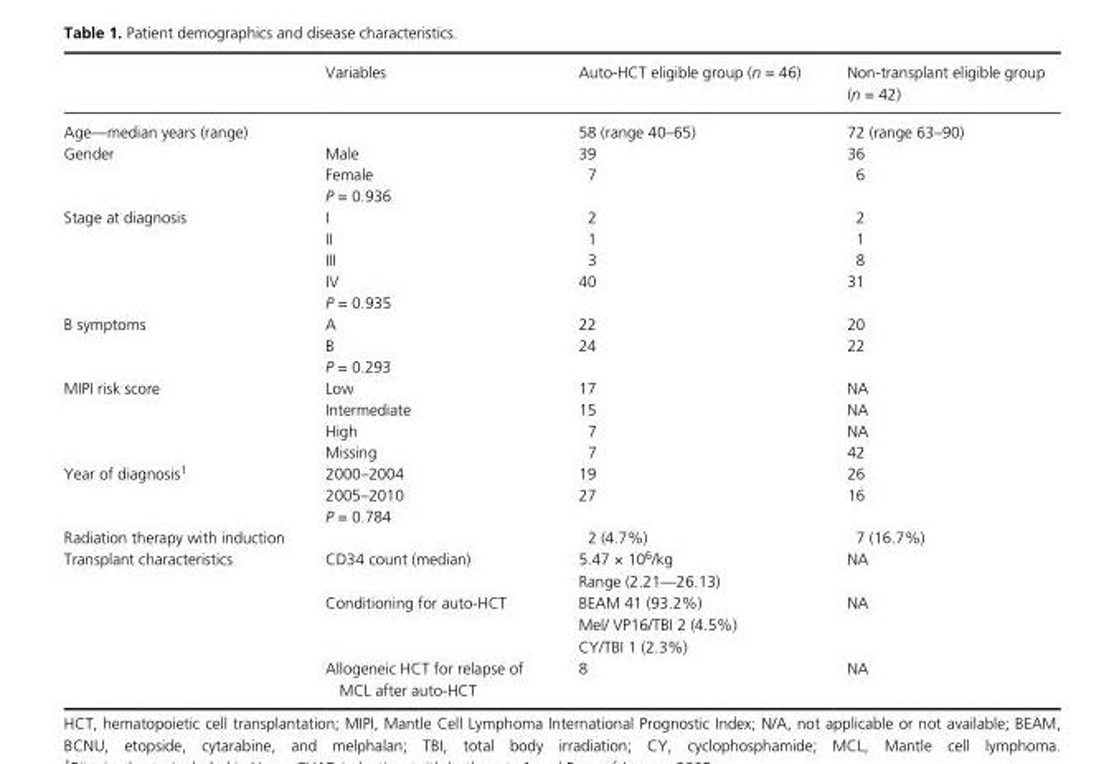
<table><thead><tr><td></td><td>Variables</td><td>Auto- HCT eligible group (n = 46)</td><td>Non- transplant eligible group (n = 42)</td></tr></thead><tbody><tr><td>Age—median years (range)</td><td></td><td>58 (range 40–65)</td><td>72 (range 63–90)</td></tr><tr><td rowspan="3">Gender</td><td>Male</td><td>39</td><td>36</td></tr><tr><td>Female</td><td>7</td><td>6</td></tr><tr><td colspan="3">P = 0.936</td></tr><tr><td rowspan="5">Stage at diagnosis</td><td>I</td><td>2</td><td>2</td></tr><tr><td>II</td><td>1</td><td>1</td></tr><tr><td>III</td><td>3</td><td>8</td></tr><tr><td>IV</td><td>40</td><td>31</td></tr><tr><td colspan="3">P = 0.935</td></tr><tr><td rowspan="3">B symptoms</td><td>A</td><td>22</td><td>20</td></tr><tr><td>B</td><td>24</td><td>22</td></tr><tr><td colspan="3">P = 0.293</td></tr><tr><td rowspan="4">MIPI risk score</td><td>Low</td><td>17</td><td>NA</td></tr><tr><td>Intermediate</td><td>15</td><td>NA</td></tr><tr><td>High</td><td>7</td><td>NA</td></tr><tr><td>Missing</td><td>7</td><td>42</td></tr><tr><td rowspan="3">Year of diagnosis1</td><td>2000–2004</td><td>19</td><td>26</td></tr><tr><td>2005–2010</td><td>27</td><td>16</td></tr><tr><td colspan="3">P = 0.784</td></tr><tr><td>Radiation therapy with induction</td><td></td><td>2 (4.7%)</td><td>7 (16.7%)</td></tr><tr><td rowspan="3">Transplant characteristics</td><td>CD34 count (median)</td><td>5.47 × 10<sup>6</sup>/kg Range (2.21—26.13)</td><td>NA</td></tr><tr><td>Conditioning for auto- HCT</td><td>BEAM 41 (93.2%) Mel/ VP16/TBI 2 (4.5%) CY/TBI 1 (2.3%)</td><td>NA</td></tr><tr><td>Allogeneic HCT for relapse of MCL after auto- HCT</td><td>8</td><td>NA</td></tr></tbody></table>